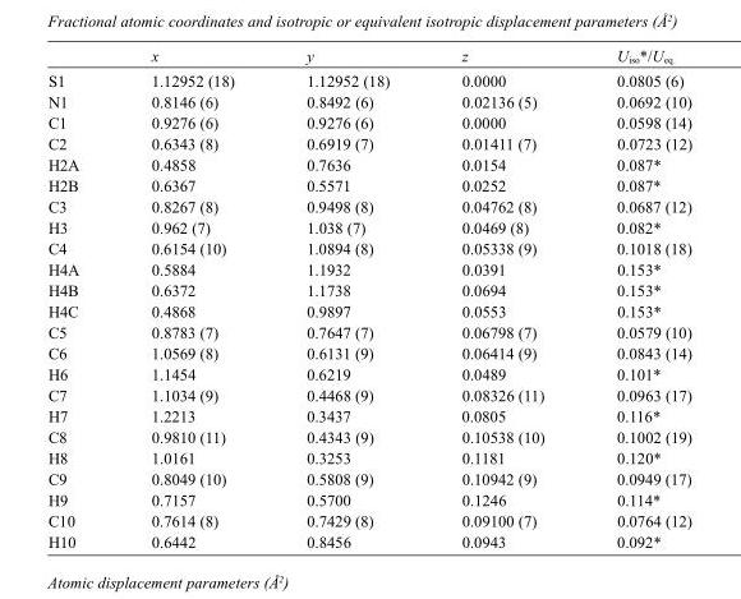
<table><thead><tr><td></td><td>x</td><td>y</td><td>z</td><td>U<sub>iso</sub>*/U<sub>eq</sub></td></tr></thead><tbody><tr><td>S1</td><td>1.12952 (18)</td><td>1.12952 (18)</td><td>0.0000</td><td>0.0805 (6)</td></tr><tr><td>N1</td><td>0.8146 (6)</td><td>0.8492 (6)</td><td>0.02136 (5)</td><td>0.0692 (10)</td></tr><tr><td>C1</td><td>0.9276 (6)</td><td>0.9276 (6)</td><td>0.0000</td><td>0.0598 (14)</td></tr><tr><td>C2</td><td>0.6343 (8)</td><td>0.6919 (7)</td><td>0.01411 (7)</td><td>0.0723 (12)</td></tr><tr><td>H2A</td><td>0.4858</td><td>0.7636</td><td>0.0154</td><td>0.087*</td></tr><tr><td>H2B</td><td>0.6367</td><td>0.5571</td><td>0.0252</td><td>0.087*</td></tr><tr><td>C3</td><td>0.8267 (8)</td><td>0.9498 (8)</td><td>0.04762 (8)</td><td>0.0687 (12)</td></tr><tr><td>H3</td><td>0.962 (7)</td><td>1.038 (7)</td><td>0.0469 (8)</td><td>0.082*</td></tr><tr><td>C4</td><td>0.6154 (10)</td><td>1.0894 (8)</td><td>0.05338 (9)</td><td>0.1018 (18)</td></tr><tr><td>H4A</td><td>0.5884</td><td>1.1932</td><td>0.0391</td><td>0.153*</td></tr><tr><td>H4B</td><td>0.6372</td><td>1.1738</td><td>0.0694</td><td>0.153*</td></tr><tr><td>H4C</td><td>0.4868</td><td>0.9897</td><td>0.0553</td><td>0.153*</td></tr><tr><td>C5</td><td>0.8783 (7)</td><td>0.7647 (7)</td><td>0.06798 (7)</td><td>0.0579 (10)</td></tr><tr><td>C6</td><td>1.0569 (8)</td><td>0.6131 (9)</td><td>0.06414 (9)</td><td>0.0843 (14)</td></tr><tr><td>H6</td><td>1.1454</td><td>0.6219</td><td>0.0489</td><td>0.101*</td></tr><tr><td>C7</td><td>1.1034 (9)</td><td>0.4468 (9)</td><td>0.08326 (11)</td><td>0.0963 (17)</td></tr><tr><td>H7</td><td>1.2213</td><td>0.3437</td><td>0.0805</td><td>0.116*</td></tr><tr><td>C8</td><td>0.9810 (11)</td><td>0.4343 (9)</td><td>0.10538 (10)</td><td>0.1002 (19)</td></tr><tr><td>H8</td><td>1.0161</td><td>0.3253</td><td>0.1181</td><td>0.120*</td></tr><tr><td>C9</td><td>0.8049 (10)</td><td>0.5808 (9)</td><td>0.10942 (9)</td><td>0.0949 (17)</td></tr><tr><td>H9</td><td>0.7157</td><td>0.5700</td><td>0.1246</td><td>0.114*</td></tr><tr><td>C10</td><td>0.7614 (8)</td><td>0.7429 (8)</td><td>0.09100 (7)</td><td>0.0764 (12)</td></tr><tr><td>H10</td><td>0.6442</td><td>0.8456</td><td>0.0943</td><td>0.092*</td></tr></tbody></table>